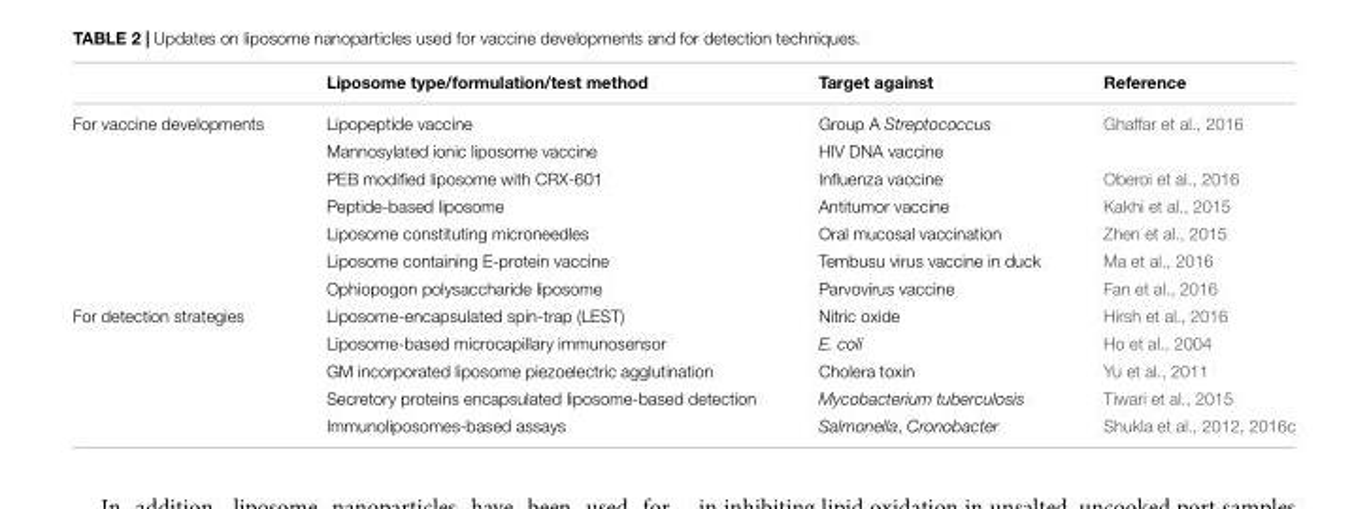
<table><thead><tr><td></td><td>Liposome type/formulation/test method</td><td>Target against</td><td>Reference</td></tr></thead><tbody><tr><td rowspan="7">For vaccine developments</td><td>Lipopeptide vaccine</td><td>Group A Streptococcus</td><td>Ghaffar et al., 2016</td></tr><tr><td>Mannosylated ionic liposome vaccine</td><td>HIV DNA vaccine</td><td></td></tr><tr><td>PEB modified liposome with CRX-601</td><td>Influenza vaccine</td><td>Oberoi et al., 2016</td></tr><tr><td>Peptide-based liposome</td><td>Antitumor vaccine</td><td>Kakhi et al., 2015</td></tr><tr><td>Liposome constituting microneedles</td><td>Oral mucosal vaccination</td><td>Zhen et al., 2015</td></tr><tr><td>Liposome containing E-protein vaccine</td><td>Tembusu virus vaccine in duck</td><td>Ma et al., 2016</td></tr><tr><td>Ophiopogon polysaccharide liposome</td><td>Parvovirus vaccine</td><td>Fan et al., 2016</td></tr><tr><td rowspan="5">For detection strategies</td><td>Liposome-encapsulated spin-trap (LEST)</td><td>Nitric oxide</td><td>Hirsh et al., 2016</td></tr><tr><td>Liposome-based microcapillary immunosensor</td><td>E. coli</td><td>Ho et al., 2004</td></tr><tr><td>GM incorporated liposome piezoelectric agglutination</td><td>Cholera toxin</td><td>Yu et al., 2011</td></tr><tr><td>Secretory proteins encapsulated liposome-based detection</td><td>Mycobacterium tuberculosis</td><td>Tiwari et al., 2015</td></tr><tr><td>Immunoliposomes-based assays</td><td>Salmonella, Cronobacter</td><td>Shukla et al., 2012, 2016c</td></tr></tbody></table>